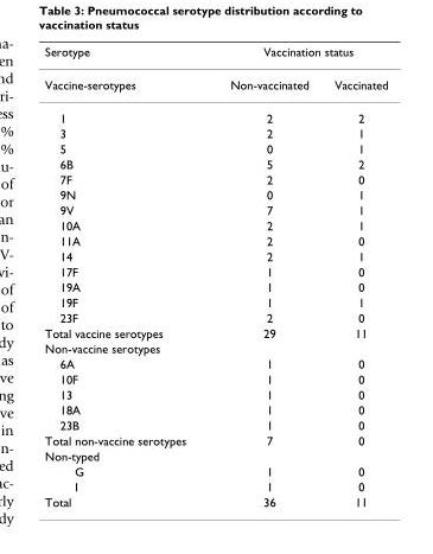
<table><thead><tr><td rowspan="2">Serotype Vaccine-serotypes</td><td colspan="2">Vaccination status</td></tr><tr><td>Non-vaccinated</td><td>Vaccinated</td></tr></thead><tbody><tr><td>1</td><td>2</td><td>2</td></tr><tr><td>3</td><td>2</td><td>1</td></tr><tr><td>5</td><td>0</td><td>1</td></tr><tr><td>6B</td><td>5</td><td>2</td></tr><tr><td>7F</td><td>2</td><td>0</td></tr><tr><td>9N</td><td>0</td><td>1</td></tr><tr><td>9V</td><td>7</td><td>1</td></tr><tr><td>10A</td><td>2</td><td>1</td></tr><tr><td>11A</td><td>2</td><td>0</td></tr><tr><td>14</td><td>2</td><td>1</td></tr><tr><td>17F</td><td>1</td><td>0</td></tr><tr><td>19A</td><td>1</td><td>0</td></tr><tr><td>19F</td><td>1</td><td>1</td></tr><tr><td>23F</td><td>2</td><td>0</td></tr><tr><td>Total vaccine serotypes</td><td>29</td><td>11</td></tr><tr><td colspan="3">Non-vaccine serotypes</td></tr><tr><td>6A</td><td>1</td><td>0</td></tr><tr><td>10F</td><td>1</td><td>0</td></tr><tr><td>13</td><td>1</td><td>0</td></tr><tr><td>18A</td><td>1</td><td>0</td></tr><tr><td>23B</td><td>1</td><td>0</td></tr><tr><td>Total non-vaccine serotypes</td><td>7</td><td>0</td></tr><tr><td colspan="3">Non-typed</td></tr><tr><td>G</td><td>1</td><td>0</td></tr><tr><td>I</td><td>1</td><td>0</td></tr><tr><td>Total</td><td>36</td><td>11</td></tr></tbody></table>